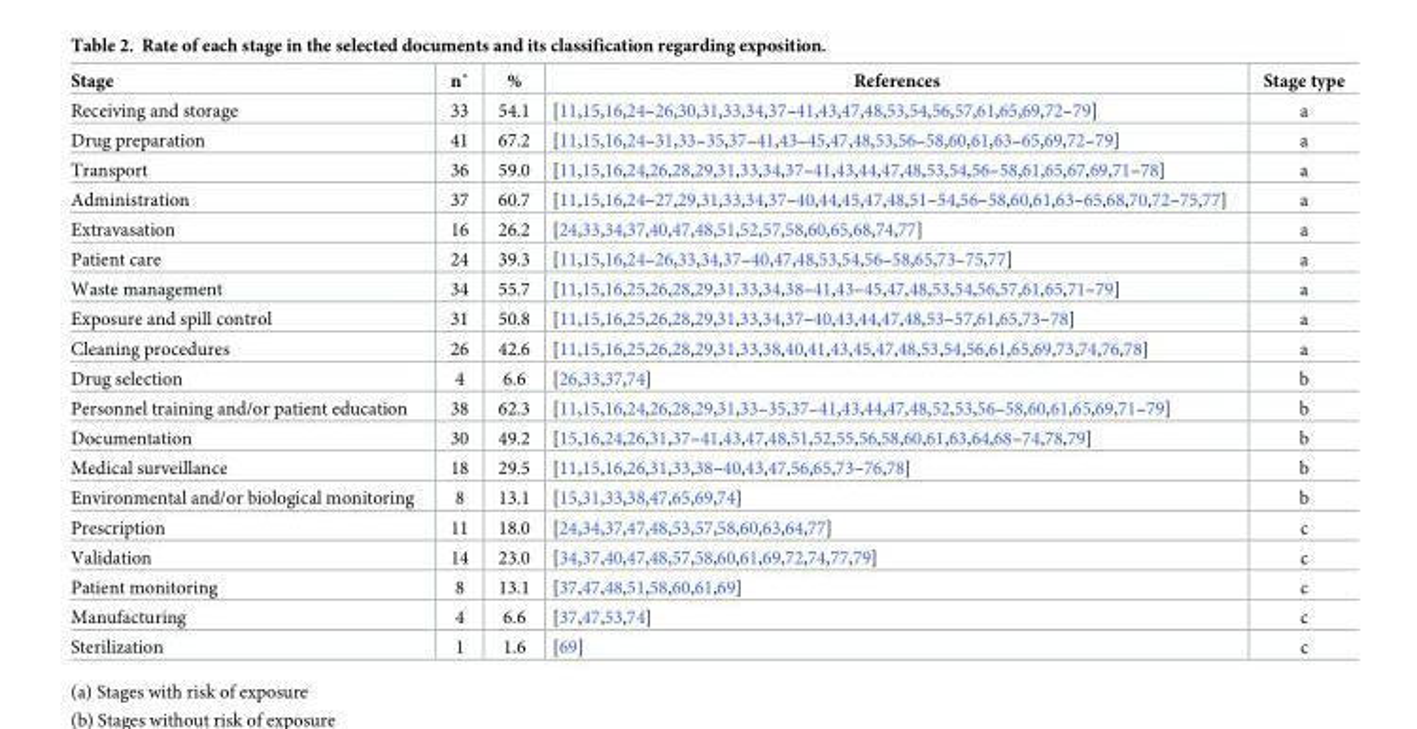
<table><thead><tr><td>Stage</td><td>n˚</td><td>%</td><td>References</td><td>Stage type</td></tr></thead><tbody><tr><td>Receiving and storage</td><td>33</td><td>54.1</td><td>[11,15,16,24–26,30,31,33,34,37–41,43,47,48,53,54,56,57,61,65,69,72–79]</td><td>a</td></tr><tr><td>Drug preparation</td><td>41</td><td>67.2</td><td>[11,15,16,24–31,33–35,37–41,43–45,47,48,53,56–58,60,61,63–65,69,72–79]</td><td>a</td></tr><tr><td>Transport</td><td>36</td><td>59.0</td><td>[11,15,16,24,26,28,29,31,33,34,37–41,43,44,47,48,53,54,56–58,61,65,67,69,71–78]</td><td>a</td></tr><tr><td>Administration</td><td>37</td><td>60.7</td><td>[11,15,16,24–27,29,31,33,34,37–40,44,45,47,48,51–54,56–58,60,61,63–65,68,70,72–75,77]</td><td>a</td></tr><tr><td>Extravasation</td><td>16</td><td>26.2</td><td>[24,33,34,37,40,47,48,51,52,57,58,60,65,68,74,77]</td><td>a</td></tr><tr><td>Patient care</td><td>24</td><td>39.3</td><td>[11,15,16,24–26,33,34,37–40,47,48,53,54,56–58,65,73–75,77]</td><td>a</td></tr><tr><td>Waste management</td><td>34</td><td>55.7</td><td>[11,15,16,25,26,28,29,31,33,34,38–41,43–45,47,48,53,54,56,57,61,65,71–79]</td><td>a</td></tr><tr><td>Exposure and spill control</td><td>31</td><td>50.8</td><td>[11,15,16,25,26,28,29,31,33,34,37–40,43,44,47,48,53–57,61,65,73–78]</td><td>a</td></tr><tr><td>Cleaning procedures</td><td>26</td><td>42.6</td><td>[11,15,16,25,26,28,29,31,33,38,40,41,43,45,47,48,53,54,56,61,65,69,73,74,76,78]</td><td>a</td></tr><tr><td>Drug selection</td><td>4</td><td>6.6</td><td>[26,33,37,74]</td><td>b</td></tr><tr><td>Personnel training and/or patient education</td><td>38</td><td>62.3</td><td>[11,15,16,24,26,28,29,31,33–35,37–41,43,44,47,48,52,53,56–58,60,61,65,69,71–79]</td><td>b</td></tr><tr><td>Documentation</td><td>30</td><td>49.2</td><td>[15,16,24,26,31,37–41,43,47,48,51,52,55,56,58,60,61,63,64,68–74,78,79]</td><td>b</td></tr><tr><td>Medical surveillance</td><td>18</td><td>29.5</td><td>[11,15,16,26,31,33,38–40,43,47,56,65,73–76,78]</td><td>b</td></tr><tr><td>Environmental and/or biological monitoring</td><td>8</td><td>13.1</td><td>[15,31,33,38,47,65,69,74]</td><td>b</td></tr><tr><td>Prescription</td><td>11</td><td>18.0</td><td>[24,34,37,47,48,53,57,58,60,63,64,77]</td><td>c</td></tr><tr><td>Validation</td><td>14</td><td>23.0</td><td>[34,37,40,47,48,57,58,60,61,69,72,74,77,79]</td><td>c</td></tr><tr><td>Patient monitoring</td><td>8</td><td>13.1</td><td>[37,47,48,51,58,60,61,69]</td><td>c</td></tr><tr><td>Manufacturing</td><td>4</td><td>6.6</td><td>[37,47,53,74]</td><td>c</td></tr><tr><td>Sterilization</td><td>1</td><td>1.6</td><td>[69]</td><td>c</td></tr></tbody></table>